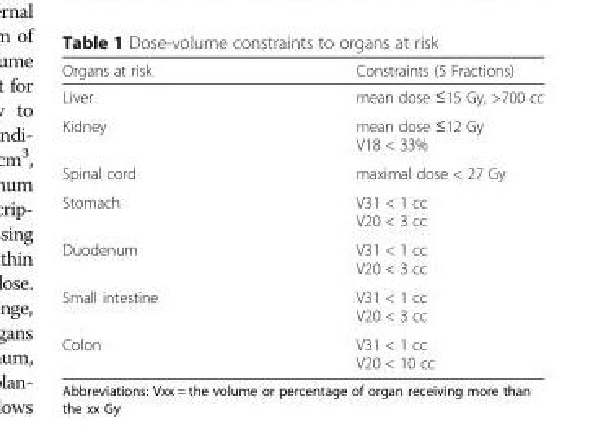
<table><thead><tr><td>Organs at risk</td><td>Constraints (5 Fractions)</td></tr></thead><tbody><tr><td>Liver</td><td>mean dose ≤15 Gy, &gt;700 cc</td></tr><tr><td>Kidney</td><td>mean dose ≤12 Gy V18 &lt; 33%</td></tr><tr><td>Spinal cord</td><td>maximal dose &lt; 27 Gy</td></tr><tr><td>Stomach</td><td>V31 &lt; 1 cc V20 &lt; 3 cc</td></tr><tr><td>Duodenum</td><td>V31 &lt; 1 cc V20 &lt; 3 cc</td></tr><tr><td>Small intestine</td><td>V31 &lt; 1 cc V20 &lt; 3 cc</td></tr><tr><td>Colon</td><td>V31 &lt; 1 cc V20 &lt; 10 cc</td></tr></tbody></table>